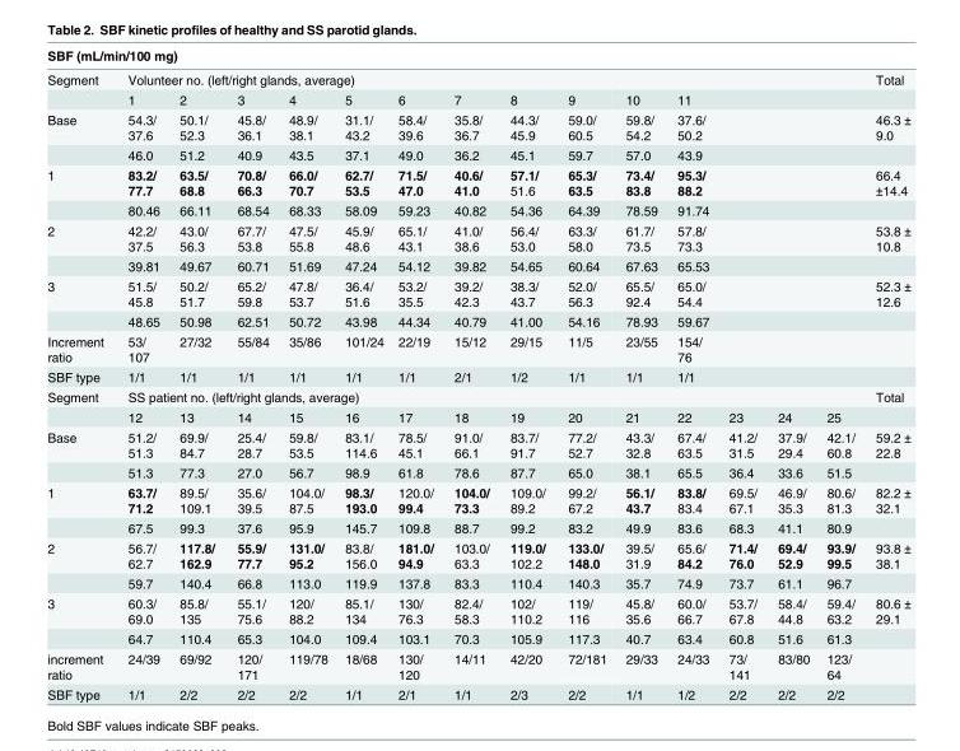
<table><thead><tr><td colspan="16">SBF (mL/min/100 mg)</td></tr><tr><td rowspan="2">Segment</td><td colspan="14">Volunteer no. (left/right glands, average)</td><td rowspan="2">Total</td></tr><tr><td>1</td><td>2</td><td>3</td><td>4</td><td>5</td><td>6</td><td>7</td><td>8</td><td>9</td><td>10</td><td>11</td><td></td><td></td><td></td></tr></thead><tbody><tr><td rowspan="2">Base</td><td>54.3/ 37.6</td><td>50.1/ 52.3</td><td>45.8/ 36.1</td><td>48.9/ 38.1</td><td>31.1/ 43.2</td><td>58.4/ 39.6</td><td>35.8/ 36.7</td><td>44.3/ 45.9</td><td>59.0/ 60.5</td><td>59.8/ 54.2</td><td>37.6/ 50.2</td><td></td><td></td><td></td><td>46.3 ± 9.0</td></tr><tr><td>46.0</td><td>51.2</td><td>40.9</td><td>43.5</td><td>37.1</td><td>49.0</td><td>36.2</td><td>45.1</td><td>59.7</td><td>57.0</td><td>43.9</td><td></td><td></td><td></td><td></td></tr><tr><td rowspan="2">1</td><td>83.2/ 77.7</td><td>63.5/ 68.8</td><td>70.8/ 66.3</td><td>66.0/ 70.7</td><td>62.7/ 53.5</td><td>71.5/ 47.0</td><td>40.6/ 41.0</td><td>57.1/ 51.6</td><td>65.3/ 63.5</td><td>73.4/ 83.8</td><td>95.3/ 88.2</td><td></td><td></td><td></td><td>66.4 ±14.4</td></tr><tr><td>80.46</td><td>66.11</td><td>68.54</td><td>68.33</td><td>58.09</td><td>59.23</td><td>40.82</td><td>54.36</td><td>64.39</td><td>78.59</td><td>91.74</td><td></td><td></td><td></td><td></td></tr><tr><td rowspan="2">2</td><td>42.2/ 37.5</td><td>43.0/ 56.3</td><td>67.7/ 53.8</td><td>47.5/ 55.8</td><td>45.9/ 48.6</td><td>65.1/ 43.1</td><td>41.0/ 38.6</td><td>56.4/ 53.0</td><td>63.3/ 58.0</td><td>61.7/ 73.5</td><td>57.8/ 73.3</td><td></td><td></td><td></td><td>53.8 ± 10.8</td></tr><tr><td>39.81</td><td>49.67</td><td>60.71</td><td>51.69</td><td>47.24</td><td>54.12</td><td>39.82</td><td>54.65</td><td>60.64</td><td>67.63</td><td>65.53</td><td></td><td></td><td></td><td></td></tr><tr><td rowspan="2">3</td><td>51.5/ 45.8</td><td>50.2/ 51.7</td><td>65.2/ 59.8</td><td>47.8/ 53.7</td><td>36.4/ 51.6</td><td>53.2/ 35.5</td><td>39.2/ 42.3</td><td>38.3/ 43.7</td><td>52.0/ 56.3</td><td>65.5/ 92.4</td><td>65.0/ 54.4</td><td></td><td></td><td></td><td>52.3 ± 12.6</td></tr><tr><td>48.65</td><td>50.98</td><td>62.51</td><td>50.72</td><td>43.98</td><td>44.34</td><td>40.79</td><td>41.00</td><td>54.16</td><td>78.93</td><td>59.67</td><td></td><td></td><td></td><td></td></tr><tr><td>Increment ratio</td><td>53/ 107</td><td>27/32</td><td>55/84</td><td>35/86</td><td>101/24</td><td>22/19</td><td>15/12</td><td>29/15</td><td>11/5</td><td>23/55</td><td>154/ 76</td><td></td><td></td><td></td><td></td></tr><tr><td>SBF type</td><td>1/1</td><td>1/1</td><td>1/1</td><td>1/1</td><td>1/1</td><td>1/1</td><td>2/1</td><td>1/2</td><td>1/1</td><td>1/1</td><td>1/1</td><td></td><td></td><td></td><td></td></tr><tr><td rowspan="2">Segment</td><td colspan="14">SS patient no. (left/right glands, average)</td><td>Total</td></tr><tr><td>12</td><td>13</td><td>14</td><td>15</td><td>16</td><td>17</td><td>18</td><td>19</td><td>20</td><td>21</td><td>22</td><td>23</td><td>24</td><td>25</td><td></td></tr><tr><td rowspan="2">Base</td><td>51.2/ 51.3</td><td>69.9/ 84.7</td><td>25.4/ 28.7</td><td>59.8/ 53.5</td><td>83.1/ 114.6</td><td>78.5/ 45.1</td><td>91.0/ 66.1</td><td>83.7/ 91.7</td><td>77.2/ 52.7</td><td>43.3/ 32.8</td><td>67.4/ 63.5</td><td>41.2/ 31.5</td><td>37.9/ 29.4</td><td>42.1/ 60.8</td><td>59.2 ± 22.8</td></tr><tr><td>51.3</td><td>77.3</td><td>27.0</td><td>56.7</td><td>98.9</td><td>61.8</td><td>78.6</td><td>87.7</td><td>65.0</td><td>38.1</td><td>65.5</td><td>36.4</td><td>33.6</td><td>51.5</td><td></td></tr><tr><td rowspan="2">1</td><td>63.7/ 71.2</td><td>89.5/ 109.1</td><td>35.6/ 39.5</td><td>104.0/ 87.5</td><td>98.3/ 193.0</td><td>120.0/ 99.4</td><td>104.0/ 73.3</td><td>109.0/ 89.2</td><td>99.2/ 67.2</td><td>56.1/ 43.7</td><td>83.8/ 83.4</td><td>69.5/ 67.1</td><td>46.9/ 35.3</td><td>80.6/ 81.3</td><td>82.2 ± 32.1</td></tr><tr><td>67.5</td><td>99.3</td><td>37.6</td><td>95.9</td><td>145.7</td><td>109.8</td><td>88.7</td><td>99.2</td><td>83.2</td><td>49.9</td><td>83.6</td><td>68.3</td><td>41.1</td><td>80.9</td><td></td></tr><tr><td rowspan="2">2</td><td>56.7/ 62.7</td><td>117.8/ 162.9</td><td>55.9/ 77.7</td><td>131.0/ 95.2</td><td>83.8/ 156.0</td><td>181.0/ 94.9</td><td>103.0/ 63.3</td><td>119.0/ 102.2</td><td>133.0/ 148.0</td><td>39.5/ 31.9</td><td>65.6/ 84.2</td><td>71.4/ 76.0</td><td>69.4/ 52.9</td><td>93.9/ 99.5</td><td>93.8 ± 38.1</td></tr><tr><td>59.7</td><td>140.4</td><td>66.8</td><td>113.0</td><td>119.9</td><td>137.8</td><td>83.3</td><td>110.4</td><td>140.3</td><td>35.7</td><td>74.9</td><td>73.7</td><td>61.1</td><td>96.7</td><td></td></tr><tr><td rowspan="2">3</td><td>60.3/ 69.0</td><td>85.8/ 135</td><td>55.1/ 75.6</td><td>120/ 88.2</td><td>85.1/ 134</td><td>130/ 76.3</td><td>82.4/ 58.3</td><td>102/ 110.2</td><td>119/ 116</td><td>45.8/ 35.6</td><td>60.0/ 66.7</td><td>53.7/ 67.8</td><td>58.4/ 44.8</td><td>59.4/ 63.2</td><td>80.6 ± 29.1</td></tr><tr><td>64.7</td><td>110.4</td><td>65.3</td><td>104.0</td><td>109.4</td><td>103.1</td><td>70.3</td><td>105.9</td><td>117.3</td><td>40.7</td><td>63.4</td><td>60.8</td><td>51.6</td><td>61.3</td><td></td></tr><tr><td>increment ratio</td><td>24/39</td><td>69/92</td><td>120/ 171</td><td>119/78</td><td>18/68</td><td>130/ 120</td><td>14/11</td><td>42/20</td><td>72/181</td><td>29/33</td><td>24/33</td><td>73/ 141</td><td>83/80</td><td>123/ 64</td><td></td></tr><tr><td>SBF type</td><td>1/1</td><td>2/2</td><td>2/2</td><td>2/2</td><td>1/1</td><td>2/1</td><td>1/1</td><td>2/3</td><td>2/2</td><td>1/1</td><td>1/2</td><td>2/2</td><td>2/2</td><td>2/2</td><td></td></tr></tbody></table>